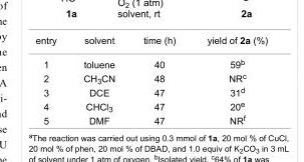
<table><tbody><tr><td>entry</td><td>solvent</td><td>time (h)</td><td>yield of 2a (%)</td></tr><tr><td>1</td><td>toluene</td><td>40</td><td>59<sup>b</sup></td></tr><tr><td>2</td><td>CH<sub>3</sub>CN</td><td>48</td><td>NR<sup>c</sup></td></tr><tr><td>3</td><td>DCE</td><td>47</td><td>31<sup>d</sup></td></tr><tr><td>4</td><td>CHCl<sub>3</sub></td><td>47</td><td>20<sup>e</sup></td></tr><tr><td>5</td><td>DMF</td><td>47</td><td>NR<sup>f</sup></td></tr></tbody></table>